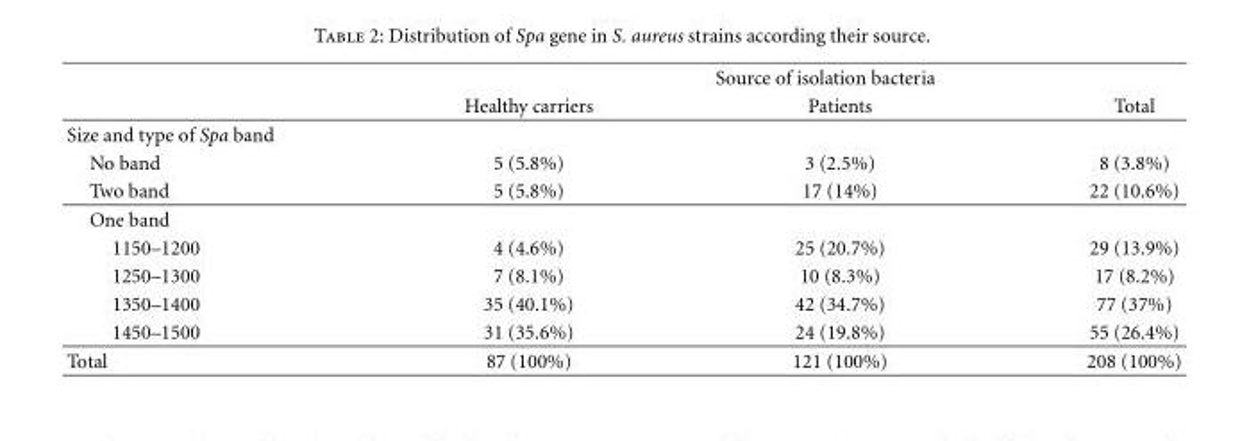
<table><thead><tr><td rowspan="2"></td><td colspan="3">Source of isolation bacteria</td></tr><tr><td>Healthy carriers</td><td>Patients</td><td>Total</td></tr></thead><tbody><tr><td colspan="4">Size and type of Spa band</td></tr><tr><td>No band</td><td>5 (5.8%)</td><td>3 (2.5%)</td><td>8 (3.8%)</td></tr><tr><td>Two band</td><td>5 (5.8%)</td><td>17 (14%)</td><td>22 (10.6%)</td></tr><tr><td colspan="4">One band</td></tr><tr><td>1150–1200</td><td>4 (4.6%)</td><td>25 (20.7%)</td><td>29 (13.9%)</td></tr><tr><td>1250–1300</td><td>7 (8.1%)</td><td>10 (8.3%)</td><td>17 (8.2%)</td></tr><tr><td>1350–1400</td><td>35 (40.1%)</td><td>42 (34.7%)</td><td>77 (37%)</td></tr><tr><td>1450–1500</td><td>31 (35.6%)</td><td>24 (19.8%)</td><td>55 (26.4%)</td></tr><tr><td>Total</td><td>87 (100%)</td><td>121 (100%)</td><td>208 (100%)</td></tr></tbody></table>